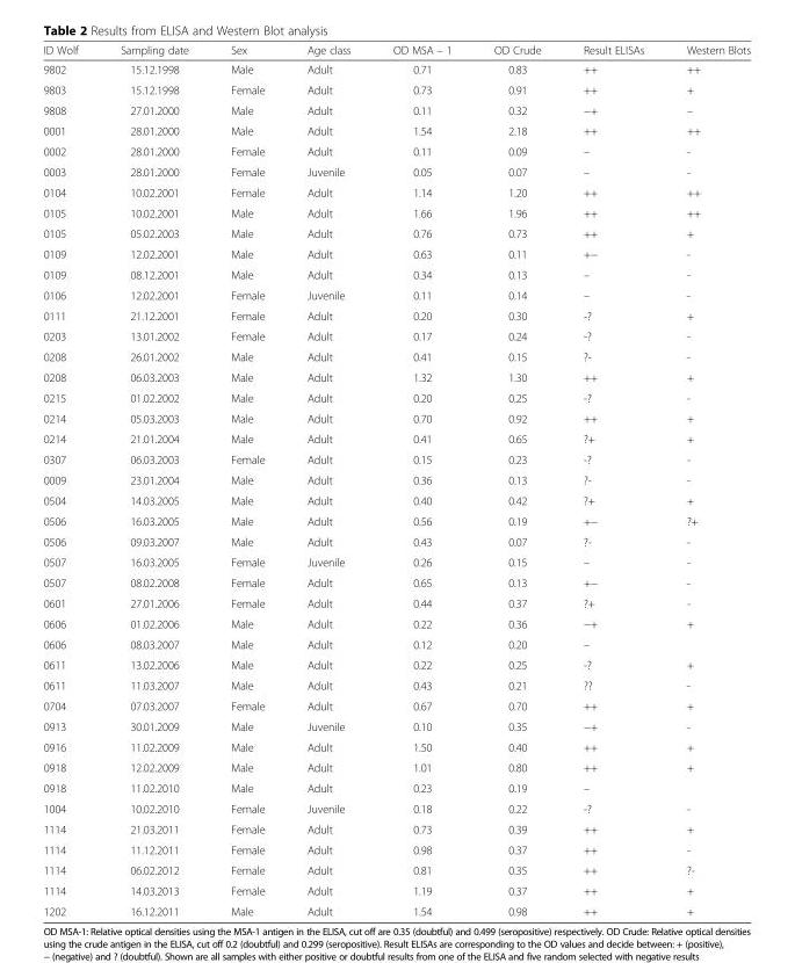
<table><thead><tr><td>ID Wolf</td><td>Sampling date</td><td>Sex</td><td>Age class</td><td>OD MSA – 1</td><td>OD Crude</td><td>Result ELISAs</td><td>Western Blots</td></tr></thead><tbody><tr><td>9802</td><td>15.12.1998</td><td>Male</td><td>Adult</td><td>0.71</td><td>0.83</td><td>++</td><td>++</td></tr><tr><td>9803</td><td>15.12.1998</td><td>Female</td><td>Adult</td><td>0.73</td><td>0.91</td><td>++</td><td>+</td></tr><tr><td>9808</td><td>27.01.2000</td><td>Male</td><td>Adult</td><td>0.11</td><td>0.32</td><td>−+</td><td>–</td></tr><tr><td>0001</td><td>28.01.2000</td><td>Male</td><td>Adult</td><td>1.54</td><td>2.18</td><td>++</td><td>++</td></tr><tr><td>0002</td><td>28.01.2000</td><td>Female</td><td>Adult</td><td>0.11</td><td>0.09</td><td>–</td><td>-</td></tr><tr><td>0003</td><td>28.01.2000</td><td>Female</td><td>Juvenile</td><td>0.05</td><td>0.07</td><td>–</td><td>-</td></tr><tr><td>0104</td><td>10.02.2001</td><td>Female</td><td>Adult</td><td>1.14</td><td>1.20</td><td>++</td><td>++</td></tr><tr><td>0105</td><td>10.02.2001</td><td>Male</td><td>Adult</td><td>1.66</td><td>1.96</td><td>++</td><td>++</td></tr><tr><td>0105</td><td>05.02.2003</td><td>Male</td><td>Adult</td><td>0.76</td><td>0.73</td><td>++</td><td>+</td></tr><tr><td>0109</td><td>12.02.2001</td><td>Male</td><td>Adult</td><td>0.63</td><td>0.11</td><td>+−</td><td>-</td></tr><tr><td>0109</td><td>08.12.2001</td><td>Male</td><td>Adult</td><td>0.34</td><td>0.13</td><td>–</td><td>-</td></tr><tr><td>0106</td><td>12.02.2001</td><td>Female</td><td>Juvenile</td><td>0.11</td><td>0.14</td><td>–</td><td>-</td></tr><tr><td>0111</td><td>21.12.2001</td><td>Female</td><td>Adult</td><td>0.20</td><td>0.30</td><td>-?</td><td>+</td></tr><tr><td>0203</td><td>13.01.2002</td><td>Female</td><td>Adult</td><td>0.17</td><td>0.24</td><td>-?</td><td>-</td></tr><tr><td>0208</td><td>26.01.2002</td><td>Male</td><td>Adult</td><td>0.41</td><td>0.15</td><td>?-</td><td>-</td></tr><tr><td>0208</td><td>06.03.2003</td><td>Male</td><td>Adult</td><td>1.32</td><td>1.30</td><td>++</td><td>+</td></tr><tr><td>0215</td><td>01.02.2002</td><td>Male</td><td>Adult</td><td>0.20</td><td>0.25</td><td>-?</td><td>-</td></tr><tr><td>0214</td><td>05.03.2003</td><td>Male</td><td>Adult</td><td>0.70</td><td>0.92</td><td>++</td><td>+</td></tr><tr><td>0214</td><td>21.01.2004</td><td>Male</td><td>Adult</td><td>0.41</td><td>0.65</td><td>?+</td><td>+</td></tr><tr><td>0307</td><td>06.03.2003</td><td>Female</td><td>Adult</td><td>0.15</td><td>0.23</td><td>-?</td><td>-</td></tr><tr><td>0009</td><td>23.01.2004</td><td>Male</td><td>Adult</td><td>0.36</td><td>0.13</td><td>?-</td><td>-</td></tr><tr><td>0504</td><td>14.03.2005</td><td>Male</td><td>Adult</td><td>0.40</td><td>0.42</td><td>?+</td><td>+</td></tr><tr><td>0506</td><td>16.03.2005</td><td>Male</td><td>Adult</td><td>0.56</td><td>0.19</td><td>+−</td><td>?+</td></tr><tr><td>0506</td><td>09.03.2007</td><td>Male</td><td>Adult</td><td>0.43</td><td>0.07</td><td>?-</td><td>-</td></tr><tr><td>0507</td><td>16.03.2005</td><td>Female</td><td>Juvenile</td><td>0.26</td><td>0.15</td><td>–</td><td>-</td></tr><tr><td>0507</td><td>08.02.2008</td><td>Female</td><td>Adult</td><td>0.65</td><td>0.13</td><td>+−</td><td>-</td></tr><tr><td>0601</td><td>27.01.2006</td><td>Female</td><td>Adult</td><td>0.44</td><td>0.37</td><td>?+</td><td>-</td></tr><tr><td>0606</td><td>01.02.2006</td><td>Male</td><td>Adult</td><td>0.22</td><td>0.36</td><td>−+</td><td>+</td></tr><tr><td>0606</td><td>08.03.2007</td><td>Male</td><td>Adult</td><td>0.12</td><td>0.20</td><td>–</td><td></td></tr><tr><td>0611</td><td>13.02.2006</td><td>Male</td><td>Adult</td><td>0.22</td><td>0.25</td><td>-?</td><td>+</td></tr><tr><td>0611</td><td>11.03.2007</td><td>Male</td><td>Adult</td><td>0.43</td><td>0.21</td><td>??</td><td>-</td></tr><tr><td>0704</td><td>07.03.2007</td><td>Female</td><td>Adult</td><td>0.67</td><td>0.70</td><td>++</td><td>+</td></tr><tr><td>0913</td><td>30.01.2009</td><td>Male</td><td>Juvenile</td><td>0.10</td><td>0.35</td><td>−+</td><td>-</td></tr><tr><td>0916</td><td>11.02.2009</td><td>Male</td><td>Adult</td><td>1.50</td><td>0.40</td><td>++</td><td>+</td></tr><tr><td>0918</td><td>12.02.2009</td><td>Male</td><td>Adult</td><td>1.01</td><td>0.80</td><td>++</td><td>+</td></tr><tr><td>0918</td><td>11.02.2010</td><td>Male</td><td>Adult</td><td>0.23</td><td>0.19</td><td>–</td><td></td></tr><tr><td>1004</td><td>10.02.2010</td><td>Female</td><td>Juvenile</td><td>0.18</td><td>0.22</td><td>-?</td><td>-</td></tr><tr><td>1114</td><td>21.03.2011</td><td>Female</td><td>Adult</td><td>0.73</td><td>0.39</td><td>++</td><td>+</td></tr><tr><td>1114</td><td>11.12.2011</td><td>Female</td><td>Adult</td><td>0.98</td><td>0.37</td><td>++</td><td>-</td></tr><tr><td>1114</td><td>06.02.2012</td><td>Female</td><td>Adult</td><td>0.81</td><td>0.35</td><td>++</td><td>?-</td></tr><tr><td>1114</td><td>14.03.2013</td><td>Female</td><td>Adult</td><td>1.19</td><td>0.37</td><td>++</td><td>+</td></tr><tr><td>1202</td><td>16.12.2011</td><td>Male</td><td>Adult</td><td>1.54</td><td>0.98</td><td>++</td><td>+</td></tr></tbody></table>